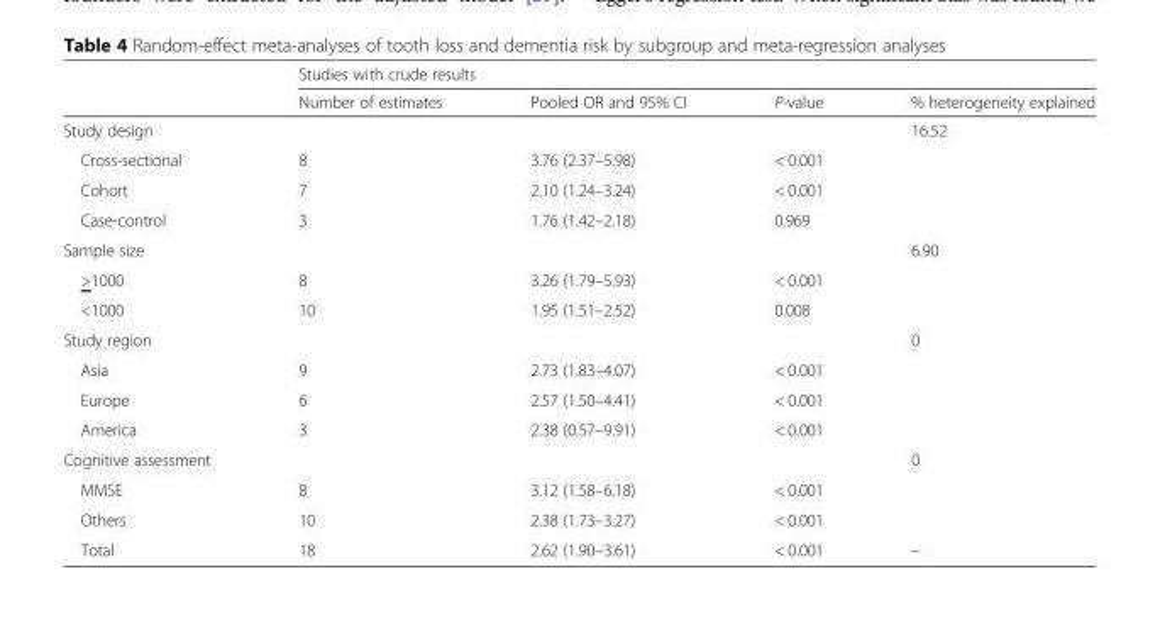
<table><thead><tr><td rowspan="2"></td><td colspan="4">Studies with crude results</td></tr><tr><td>Number of estimates</td><td>Pooled OR and 95% CI</td><td>P-value</td><td>% heterogeneity explained</td></tr></thead><tbody><tr><td>Study design</td><td colspan="3"></td><td>16.52</td></tr><tr><td>Cross-sectional</td><td>8</td><td>3.76 (2.37–5.98)</td><td>&lt; 0.001</td><td></td></tr><tr><td>Cohort</td><td>7</td><td>2.10 (1.24–3.24)</td><td>&lt; 0.001</td><td></td></tr><tr><td>Case-control</td><td>3</td><td>1.76 (1.42–2.18)</td><td>0.969</td><td></td></tr><tr><td>Sample size</td><td colspan="3"></td><td>6.90</td></tr><tr><td>&gt;1000</td><td>8</td><td>3.26 (1.79–5.93)</td><td>&lt; 0.001</td><td></td></tr><tr><td>&lt;1000</td><td>10</td><td>1.95 (1.51–2.52)</td><td>0.008</td><td></td></tr><tr><td>Study region</td><td colspan="3"></td><td>0</td></tr><tr><td>Asia</td><td>9</td><td>2.73 (1.83–4.07)</td><td>&lt; 0.001</td><td></td></tr><tr><td>Europe</td><td>6</td><td>2.57 (1.50–4.41)</td><td>&lt; 0.001</td><td></td></tr><tr><td>America</td><td>3</td><td>2.38 (0.57–9.91)</td><td>&lt; 0.001</td><td></td></tr><tr><td>Cognitive assessment</td><td colspan="3"></td><td>0</td></tr><tr><td>MMSE</td><td>8</td><td>3.12 (1.58–6.18)</td><td>&lt; 0.001</td><td></td></tr><tr><td>Others</td><td>10</td><td>2.38 (1.73–3.27)</td><td>&lt; 0.001</td><td></td></tr><tr><td>Total</td><td>18</td><td>2.62 (1.90–3.61)</td><td>&lt; 0.001</td><td>–</td></tr></tbody></table>